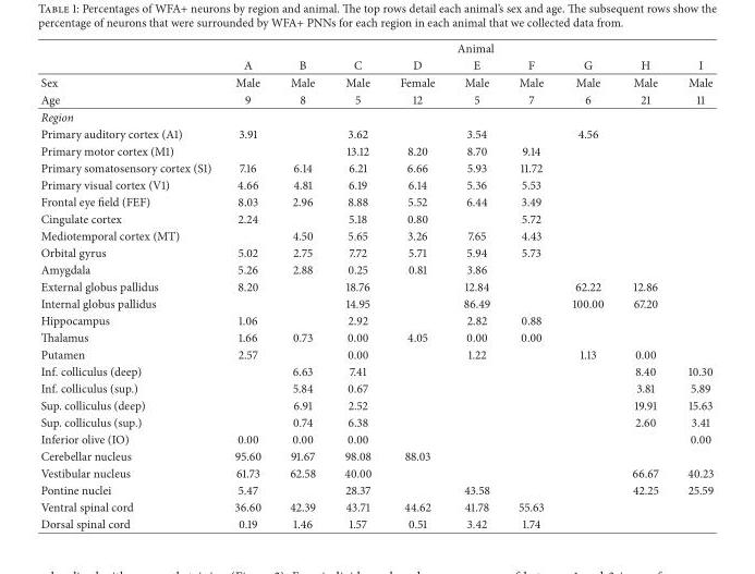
<table><thead><tr><td rowspan="2"></td><td colspan="9">Animal</td></tr><tr><td>A</td><td>B</td><td>C</td><td>D</td><td>E</td><td>F</td><td>G</td><td>H</td><td>I</td></tr></thead><tbody><tr><td>Sex</td><td>Male</td><td>Male</td><td>Male</td><td>Female</td><td>Male</td><td>Male</td><td>Male</td><td>Male</td><td>Male</td></tr><tr><td>Age</td><td>9</td><td>8</td><td>5</td><td>12</td><td>5</td><td>7</td><td>6</td><td>21</td><td>11</td></tr><tr><td colspan="10">Region</td></tr><tr><td>Primary auditory cortex (A1)</td><td>3.91</td><td></td><td>3.62</td><td></td><td>3.54</td><td></td><td>4.56</td><td></td><td></td></tr><tr><td>Primary motor cortex (M1)</td><td></td><td></td><td>13.12</td><td>8.20</td><td>8.70</td><td>9.14</td><td></td><td></td><td></td></tr><tr><td>Primary somatosensory cortex (S1)</td><td>7.16</td><td>6.14</td><td>6.21</td><td>6.66</td><td>5.93</td><td>11.72</td><td></td><td></td><td></td></tr><tr><td>Primary visual cortex (V1)</td><td>4.66</td><td>4.81</td><td>6.19</td><td>6.14</td><td>5.36</td><td>5.53</td><td></td><td></td><td></td></tr><tr><td>Frontal eye field (FEF)</td><td>8.03</td><td>2.96</td><td>8.88</td><td>5.52</td><td>6.44</td><td>3.49</td><td></td><td></td><td></td></tr><tr><td>Cingulate cortex</td><td>2.24</td><td></td><td>5.18</td><td>0.80</td><td></td><td>5.72</td><td></td><td></td><td></td></tr><tr><td>Mediotemporal cortex (MT)</td><td></td><td>4.50</td><td>5.65</td><td>3.26</td><td>7.65</td><td>4.43</td><td></td><td></td><td></td></tr><tr><td>Orbital gyrus</td><td>5.02</td><td>2.75</td><td>7.72</td><td>5.71</td><td>5.94</td><td>5.73</td><td></td><td></td><td></td></tr><tr><td>Amygdala</td><td>5.26</td><td>2.88</td><td>0.25</td><td>0.81</td><td>3.86</td><td></td><td></td><td></td><td></td></tr><tr><td>External globus pallidus</td><td>8.20</td><td></td><td>18.76</td><td></td><td>12.84</td><td></td><td>62.22</td><td>12.86</td><td></td></tr><tr><td>Internal globus pallidus</td><td></td><td></td><td>14.95</td><td></td><td>86.49</td><td></td><td>100.00</td><td>67.20</td><td></td></tr><tr><td>Hippocampus</td><td>1.06</td><td></td><td>2.92</td><td></td><td>2.82</td><td>0.88</td><td></td><td></td><td></td></tr><tr><td>Thalamus</td><td>1.66</td><td>0.73</td><td>0.00</td><td>4.05</td><td>0.00</td><td>0.00</td><td></td><td></td><td></td></tr><tr><td>Putamen</td><td>2.57</td><td></td><td>0.00</td><td></td><td>1.22</td><td></td><td>1.13</td><td>0.00</td><td></td></tr><tr><td>Inf. colliculus (deep)</td><td></td><td>6.63</td><td>7.41</td><td></td><td></td><td></td><td></td><td>8.40</td><td>10.30</td></tr><tr><td>Inf. colliculus (sup.)</td><td></td><td>5.84</td><td>0.67</td><td></td><td></td><td></td><td></td><td>3.81</td><td>5.89</td></tr><tr><td>Sup. colliculus (deep)</td><td></td><td>6.91</td><td>2.52</td><td></td><td></td><td></td><td></td><td>19.91</td><td>15.63</td></tr><tr><td>Sup. colliculus (sup.)</td><td></td><td>0.74</td><td>6.38</td><td></td><td></td><td></td><td></td><td>2.60</td><td>3.41</td></tr><tr><td>Inferior olive (IO)</td><td>0.00</td><td>0.00</td><td>0.00</td><td></td><td></td><td></td><td></td><td></td><td>0.00</td></tr><tr><td>Cerebellar nucleus</td><td>95.60</td><td>91.67</td><td>98.08</td><td>88.03</td><td></td><td></td><td></td><td></td><td></td></tr><tr><td>Vestibular nucleus</td><td>61.73</td><td>62.58</td><td>40.00</td><td></td><td></td><td></td><td></td><td>66.67</td><td>40.23</td></tr><tr><td>Pontine nuclei</td><td>5.47</td><td></td><td>28.37</td><td></td><td>43.58</td><td></td><td></td><td>42.25</td><td>25.59</td></tr><tr><td>Ventral spinal cord</td><td>36.60</td><td>42.39</td><td>43.71</td><td>44.62</td><td>41.78</td><td>55.63</td><td></td><td></td><td></td></tr><tr><td>Dorsal spinal cord</td><td>0.19</td><td>1.46</td><td>1.57</td><td>0.51</td><td>3.42</td><td>1.74</td><td></td><td></td><td></td></tr></tbody></table>